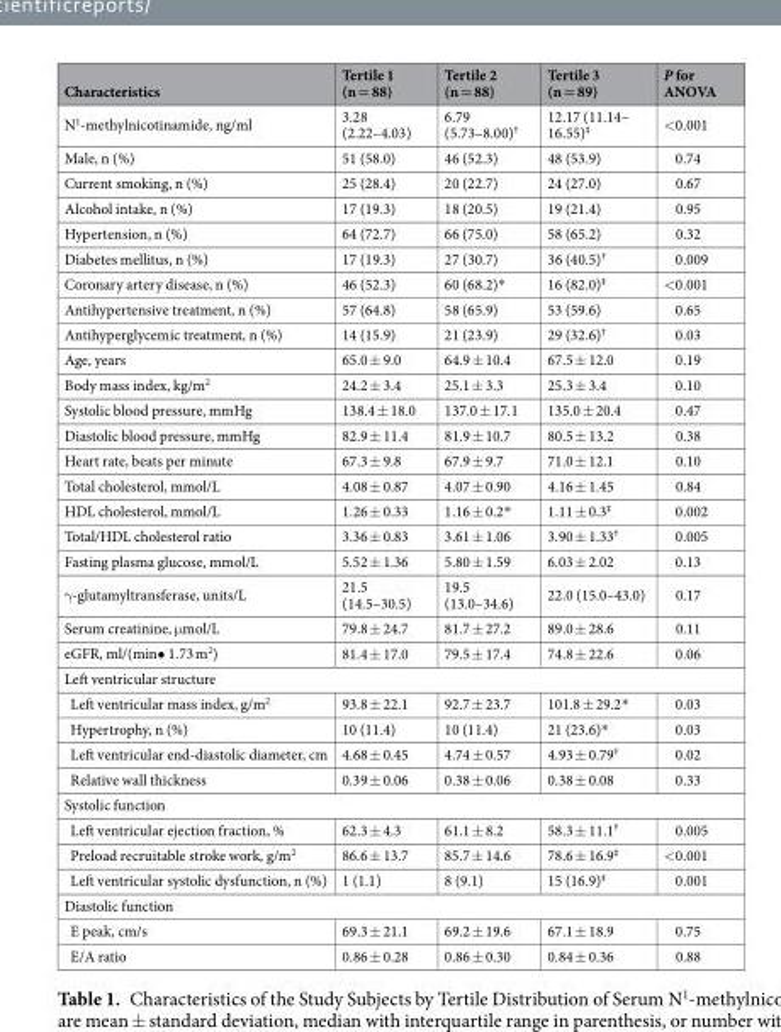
<table><thead><tr><td>Characteristics</td><td>Tertile 1 (n = 88)</td><td>Tertile 2 (n = 88)</td><td>Tertile 3 (n = 89)</td><td>P for ANOVA</td></tr></thead><tbody><tr><td>N<sup>1</sup>-methylnicotinamide, ng/ml</td><td>3.28 (2.22–4.03)</td><td>6.79 (5.73–8.00)<sup>†</sup></td><td>12.17 (11.14– 16.55)<sup>‡</sup></td><td>&lt;0.001</td></tr><tr><td>Male, n (%)</td><td>51 (58.0)</td><td>46 (52.3)</td><td>48 (53.9)</td><td>0.74</td></tr><tr><td>Current smoking, n (%)</td><td>25 (28.4)</td><td>20 (22.7)</td><td>24 (27.0)</td><td>0.67</td></tr><tr><td>Alcohol intake, n (%)</td><td>17 (19.3)</td><td>18 (20.5)</td><td>19 (21.4)</td><td>0.95</td></tr><tr><td>Hypertension, n (%)</td><td>64 (72.7)</td><td>66 (75.0)</td><td>58 (65.2)</td><td>0.32</td></tr><tr><td>Diabetes mellitus, n (%)</td><td>17 (19.3)</td><td>27 (30.7)</td><td>36 (40.5)<sup>†</sup></td><td>0.009</td></tr><tr><td>Coronary artery disease, n (%)</td><td>46 (52.3)</td><td>60 (68.2)*</td><td>16 (82.0)<sup>‡</sup></td><td>&lt;0.001</td></tr><tr><td>Antihypertensive treatment, n (%)</td><td>57 (64.8)</td><td>58 (65.9)</td><td>53 (59.6)</td><td>0.65</td></tr><tr><td>Antihyperglycemic treatment, n (%)</td><td>14 (15.9)</td><td>21 (23.9)</td><td>29 (32.6)<sup>†</sup></td><td>0.03</td></tr><tr><td>Age, years</td><td>65.0 ± 9.0</td><td>64.9 ± 10.4</td><td>67.5 ± 12.0</td><td>0.19</td></tr><tr><td>Body mass index, kg/m<sup>2</sup></td><td>24.2 ± 3.4</td><td>25.1 ± 3.3</td><td>25.3 ± 3.4</td><td>0.10</td></tr><tr><td>Systolic blood pressure, mmHg</td><td>138.4 ± 18.0</td><td>137.0 ± 17.1</td><td>135.0 ± 20.4</td><td>0.47</td></tr><tr><td>Diastolic blood pressure, mmHg</td><td>82.9 ± 11.4</td><td>81.9 ± 10.7</td><td>80.5 ± 13.2</td><td>0.38</td></tr><tr><td>Heart rate, beats per minute</td><td>67.3 ± 9.8</td><td>67.9 ± 9.7</td><td>71.0 ± 12.1</td><td>0.10</td></tr><tr><td>Total cholesterol, mmol/L</td><td>4.08 ± 0.87</td><td>4.07 ± 0.90</td><td>4.16 ± 1.45</td><td>0.84</td></tr><tr><td>HDL cholesterol, mmol/L</td><td>1.26 ± 0.33</td><td>1.16 ± 0.2*</td><td>1.11 ± 0.3<sup>‡</sup></td><td>0.002</td></tr><tr><td>Total/HDL cholesterol ratio</td><td>3.36 ± 0.83</td><td>3.61 ± 1.06</td><td>3.90 ± 1.33<sup>†</sup></td><td>0.005</td></tr><tr><td>Fasting plasma glucose, mmol/L</td><td>5.52 ± 1.36</td><td>5.80 ± 1.59</td><td>6.03 ± 2.02</td><td>0.13</td></tr><tr><td>γ-glutamyltransferase, units/L</td><td>21.5 (14.5–30.5)</td><td>19.5 (13.0–34.6)</td><td>22.0 (15.0–43.0)</td><td>0.17</td></tr><tr><td>Serum creatinine, μmol/L</td><td>79.8 ± 24.7</td><td>81.7 ± 27.2</td><td>89.0 ± 28.6</td><td>0.11</td></tr><tr><td>eGFR, ml/(min• 1.73 m<sup>2</sup>)</td><td>81.4 ± 17.0</td><td>79.5 ± 17.4</td><td>74.8 ± 22.6</td><td>0.06</td></tr><tr><td colspan="5">Left ventricular structure</td></tr><tr><td>Left ventricular mass index, g/m<sup>2</sup></td><td>93.8 ± 22.1</td><td>92.7 ± 23.7</td><td>101.8 ± 29.2*</td><td>0.03</td></tr><tr><td>Hypertrophy, n (%)</td><td>10 (11.4)</td><td>10 (11.4)</td><td>21 (23.6)*</td><td>0.03</td></tr><tr><td>Left ventricular end-diastolic diameter, cm</td><td>4.68 ± 0.45</td><td>4.74 ± 0.57</td><td>4.93 ± 0.79<sup>†</sup></td><td>0.02</td></tr><tr><td>Relative wall thickness</td><td>0.39 ± 0.06</td><td>0.38 ± 0.06</td><td>0.38 ± 0.08</td><td>0.33</td></tr><tr><td colspan="5">Systolic function</td></tr><tr><td>Left ventricular ejection fraction, %</td><td>62.3 ± 4.3</td><td>61.1 ± 8.2</td><td>58.3 ± 11.1<sup>†</sup></td><td>0.005</td></tr><tr><td>Preload recruitable stroke work, g/m<sup>2</sup></td><td>86.6 ± 13.7</td><td>85.7 ± 14.6</td><td>78.6 ± 16.9<sup>‡</sup></td><td>&lt;0.001</td></tr><tr><td>Left ventricular systolic dysfunction, n (%)</td><td>1 (1.1)</td><td>8 (9.1)</td><td>15 (16.9)<sup>‡</sup></td><td>0.001</td></tr><tr><td colspan="5">Diastolic function</td></tr><tr><td>E peak, cm/s</td><td>69.3 ± 21.1</td><td>69.2 ± 19.6</td><td>67.1 ± 18.9</td><td>0.75</td></tr><tr><td>E/A ratio</td><td>0.86 ± 0.28</td><td>0.86 ± 0.30</td><td>0.84 ± 0.36</td><td>0.88</td></tr></tbody></table>